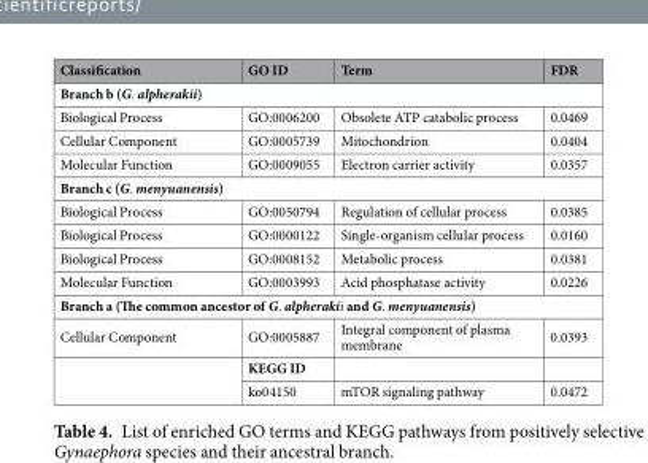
<table><thead><tr><td>Classification</td><td>GO ID</td><td>Term</td><td>FDR</td></tr></thead><tbody><tr><td colspan="4">Branch b (G. alpherakii)</td></tr><tr><td>Biological Process</td><td>GO:0006200</td><td>Obsolete ATP catabolic process</td><td>0.0469</td></tr><tr><td>Cellular Component</td><td>GO:0005739</td><td>Mitochondrion</td><td>0.0404</td></tr><tr><td>Molecular Function</td><td>GO:0009055</td><td>Electron carrier activity</td><td>0.0357</td></tr><tr><td colspan="4">Branch c (G. menyuanensis)</td></tr><tr><td>Biological Process</td><td>GO:0050794</td><td>Regulation of cellular process</td><td>0.0385</td></tr><tr><td>Biological Process</td><td>GO:0000122</td><td>Single-organism cellular process</td><td>0.0160</td></tr><tr><td>Biological Process</td><td>GO:0008152</td><td>Metabolic process</td><td>0.0381</td></tr><tr><td>Molecular Function</td><td>GO:0003993</td><td>Acid phosphatase activity</td><td>0.0226</td></tr><tr><td colspan="4">Branch a (The common ancestor of G. alpherakii and G. menyuanensis)</td></tr><tr><td rowspan="3">Cellular Component</td><td>GO:0005887</td><td>Integral component of plasma membrane</td><td>0.0393</td></tr><tr><td>KEGG ID</td><td></td><td></td></tr><tr><td>ko04150</td><td>mTOR signaling pathway</td><td>0.0472</td></tr></tbody></table>